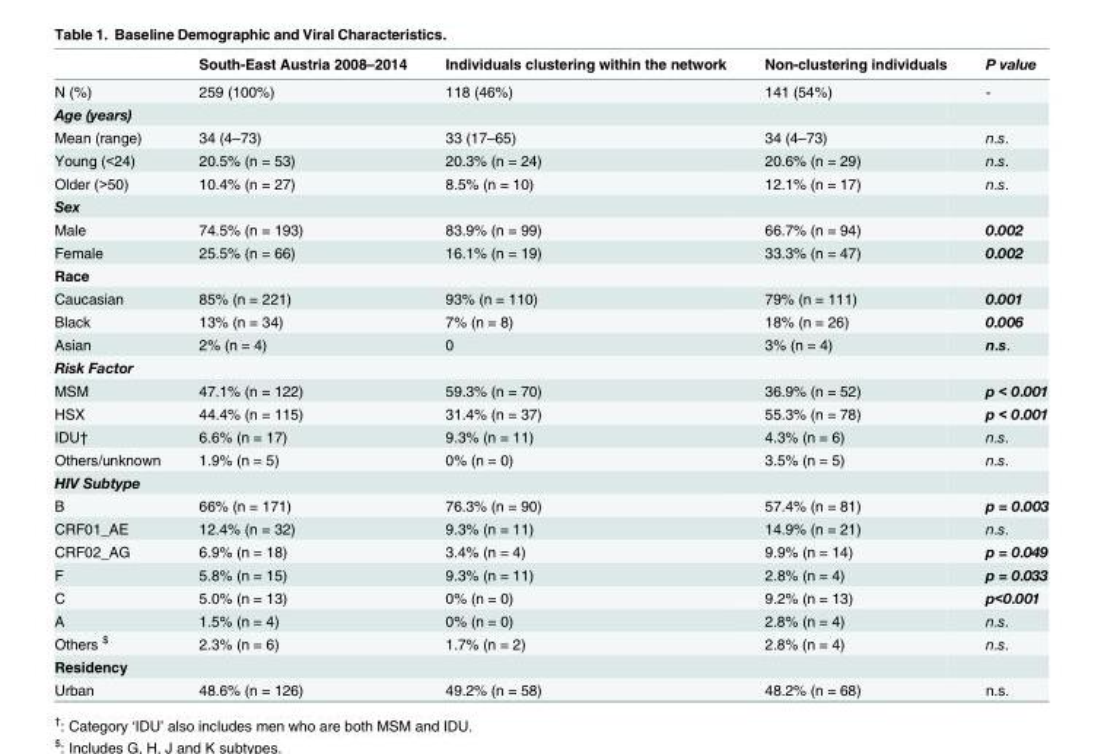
<table><thead><tr><td></td><td>South-East Austria 2008–2014</td><td>Individuals clustering within the network</td><td>Non-clustering individuals</td><td>P value</td></tr></thead><tbody><tr><td>N (%)</td><td>259 (100%)</td><td>118 (46%)</td><td>141 (54%)</td><td>-</td></tr><tr><td colspan="5">Age (years)</td></tr><tr><td>Mean (range)</td><td>34 (4–73)</td><td>33 (17–65)</td><td>34 (4–73)</td><td>n.s.</td></tr><tr><td>Young (&lt;24)</td><td>20.5% (n = 53)</td><td>20.3% (n = 24)</td><td>20.6% (n = 29)</td><td>n.s.</td></tr><tr><td>Older (&gt;50)</td><td>10.4% (n = 27)</td><td>8.5% (n = 10)</td><td>12.1% (n = 17)</td><td>n.s.</td></tr><tr><td colspan="5">Sex</td></tr><tr><td>Male</td><td>74.5% (n = 193)</td><td>83.9% (n = 99)</td><td>66.7% (n = 94)</td><td>0.002</td></tr><tr><td>Female</td><td>25.5% (n = 66)</td><td>16.1% (n = 19)</td><td>33.3% (n = 47)</td><td>0.002</td></tr><tr><td colspan="5">Race</td></tr><tr><td>Caucasian</td><td>85% (n = 221)</td><td>93% (n = 110)</td><td>79% (n = 111)</td><td>0.001</td></tr><tr><td>Black</td><td>13% (n = 34)</td><td>7% (n = 8)</td><td>18% (n = 26)</td><td>0.006</td></tr><tr><td>Asian</td><td>2% (n = 4)</td><td>0</td><td>3% (n = 4)</td><td>n.s.</td></tr><tr><td colspan="5">Risk Factor</td></tr><tr><td>MSM</td><td>47.1% (n = 122)</td><td>59.3% (n = 70)</td><td>36.9% (n = 52)</td><td>p &lt; 0.001</td></tr><tr><td>HSX</td><td>44.4% (n = 115)</td><td>31.4% (n = 37)</td><td>55.3% (n = 78)</td><td>p &lt; 0.001</td></tr><tr><td>IDU†</td><td>6.6% (n = 17)</td><td>9.3% (n = 11)</td><td>4.3% (n = 6)</td><td>n.s.</td></tr><tr><td>Others/unknown</td><td>1.9% (n = 5)</td><td>0% (n = 0)</td><td>3.5% (n = 5)</td><td>n.s.</td></tr><tr><td colspan="5">HIV Subtype</td></tr><tr><td>B</td><td>66% (n = 171)</td><td>76.3% (n = 90)</td><td>57.4% (n = 81)</td><td>p = 0.003</td></tr><tr><td>CRF01_AE</td><td>12.4% (n = 32)</td><td>9.3% (n = 11)</td><td>14.9% (n = 21)</td><td>n.s.</td></tr><tr><td>CRF02_AG</td><td>6.9% (n = 18)</td><td>3.4% (n = 4)</td><td>9.9% (n = 14)</td><td>p = 0.049</td></tr><tr><td>F</td><td>5.8% (n = 15)</td><td>9.3% (n = 11)</td><td>2.8% (n = 4)</td><td>p = 0.033</td></tr><tr><td>C</td><td>5.0% (n = 13)</td><td>0% (n = 0)</td><td>9.2% (n = 13)</td><td>p&lt;0.001</td></tr><tr><td>A</td><td>1.5% (n = 4)</td><td>0% (n = 0)</td><td>2.8% (n = 4)</td><td>n.s.</td></tr><tr><td>Others <sup>$</sup></td><td>2.3% (n = 6)</td><td>1.7% (n = 2)</td><td>2.8% (n = 4)</td><td>n.s.</td></tr><tr><td colspan="5">Residency</td></tr><tr><td>Urban</td><td>48.6% (n = 126)</td><td>49.2% (n = 58)</td><td>48.2% (n = 68)</td><td>n.s.</td></tr></tbody></table>